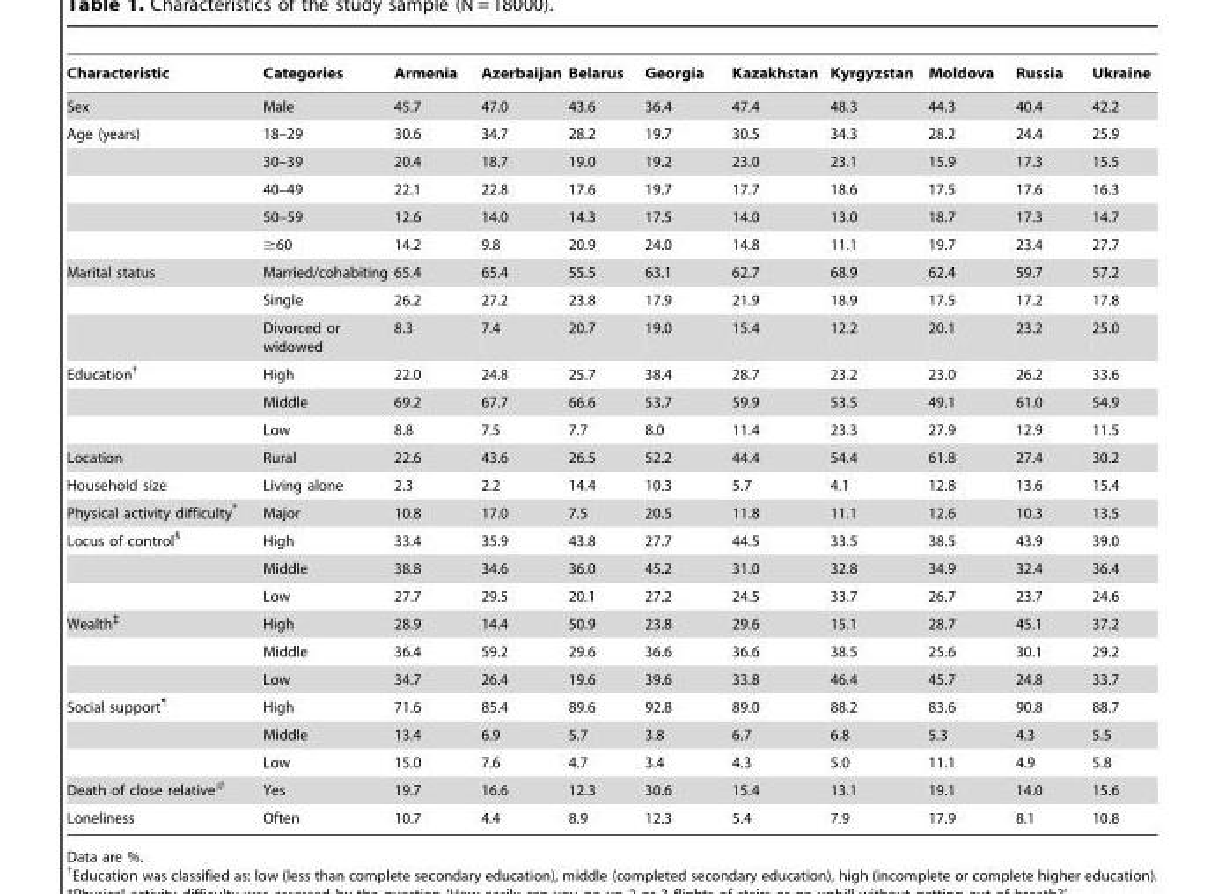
<table><thead><tr><td>Characteristic</td><td>Categories</td><td>Armenia</td><td>Azerbaijan</td><td>Belarus</td><td>Georgia</td><td>Kazakhstan</td><td>Kyrgyzstan</td><td>Moldova</td><td>Russia</td><td>Ukraine</td></tr></thead><tbody><tr><td>Sex</td><td>Male</td><td>45.7</td><td>47.0</td><td>43.6</td><td>36.4</td><td>47.4</td><td>48.3</td><td>44.3</td><td>40.4</td><td>42.2</td></tr><tr><td rowspan="5">Age (years)</td><td>18–29</td><td>30.6</td><td>34.7</td><td>28.2</td><td>19.7</td><td>30.5</td><td>34.3</td><td>28.2</td><td>24.4</td><td>25.9</td></tr><tr><td>30–39</td><td>20.4</td><td>18.7</td><td>19.0</td><td>19.2</td><td>23.0</td><td>23.1</td><td>15.9</td><td>17.3</td><td>15.5</td></tr><tr><td>40–49</td><td>22.1</td><td>22.8</td><td>17.6</td><td>19.7</td><td>17.7</td><td>18.6</td><td>17.5</td><td>17.6</td><td>16.3</td></tr><tr><td>50–59</td><td>12.6</td><td>14.0</td><td>14.3</td><td>17.5</td><td>14.0</td><td>13.0</td><td>18.7</td><td>17.3</td><td>14.7</td></tr><tr><td>≥60</td><td>14.2</td><td>9.8</td><td>20.9</td><td>24.0</td><td>14.8</td><td>11.1</td><td>19.7</td><td>23.4</td><td>27.7</td></tr><tr><td rowspan="3">Marital status</td><td>Married/cohabiting</td><td>65.4</td><td>65.4</td><td>55.5</td><td>63.1</td><td>62.7</td><td>68.9</td><td>62.4</td><td>59.7</td><td>57.2</td></tr><tr><td>Single</td><td>26.2</td><td>27.2</td><td>23.8</td><td>17.9</td><td>21.9</td><td>18.9</td><td>17.5</td><td>17.2</td><td>17.8</td></tr><tr><td>Divorced or widowed</td><td>8.3</td><td>7.4</td><td>20.7</td><td>19.0</td><td>15.4</td><td>12.2</td><td>20.1</td><td>23.2</td><td>25.0</td></tr><tr><td rowspan="3">Education†</td><td>High</td><td>22.0</td><td>24.8</td><td>25.7</td><td>38.4</td><td>28.7</td><td>23.2</td><td>23.0</td><td>26.2</td><td>33.6</td></tr><tr><td>Middle</td><td>69.2</td><td>67.7</td><td>66.6</td><td>53.7</td><td>59.9</td><td>53.5</td><td>49.1</td><td>61.0</td><td>54.9</td></tr><tr><td>Low</td><td>8.8</td><td>7.5</td><td>7.7</td><td>8.0</td><td>11.4</td><td>23.3</td><td>27.9</td><td>12.9</td><td>11.5</td></tr><tr><td>Location</td><td>Rural</td><td>22.6</td><td>43.6</td><td>26.5</td><td>52.2</td><td>44.4</td><td>54.4</td><td>61.8</td><td>27.4</td><td>30.2</td></tr><tr><td>Household size</td><td>Living alone</td><td>2.3</td><td>2.2</td><td>14.4</td><td>10.3</td><td>5.7</td><td>4.1</td><td>12.8</td><td>13.6</td><td>15.4</td></tr><tr><td>Physical activity difficulty*</td><td>Major</td><td>10.8</td><td>17.0</td><td>7.5</td><td>20.5</td><td>11.8</td><td>11.1</td><td>12.6</td><td>10.3</td><td>13.5</td></tr><tr><td rowspan="3">Locus of control§</td><td>High</td><td>33.4</td><td>35.9</td><td>43.8</td><td>27.7</td><td>44.5</td><td>33.5</td><td>38.5</td><td>43.9</td><td>39.0</td></tr><tr><td>Middle</td><td>38.8</td><td>34.6</td><td>36.0</td><td>45.2</td><td>31.0</td><td>32.8</td><td>34.9</td><td>32.4</td><td>36.4</td></tr><tr><td>Low</td><td>27.7</td><td>29.5</td><td>20.1</td><td>27.2</td><td>24.5</td><td>33.7</td><td>26.7</td><td>23.7</td><td>24.6</td></tr><tr><td rowspan="3">Wealth‡</td><td>High</td><td>28.9</td><td>14.4</td><td>50.9</td><td>23.8</td><td>29.6</td><td>15.1</td><td>28.7</td><td>45.1</td><td>37.2</td></tr><tr><td>Middle</td><td>36.4</td><td>59.2</td><td>29.6</td><td>36.6</td><td>36.6</td><td>38.5</td><td>25.6</td><td>30.1</td><td>29.2</td></tr><tr><td>Low</td><td>34.7</td><td>26.4</td><td>19.6</td><td>39.6</td><td>33.8</td><td>46.4</td><td>45.7</td><td>24.8</td><td>33.7</td></tr><tr><td rowspan="3">Social support¶</td><td>High</td><td>71.6</td><td>85.4</td><td>89.6</td><td>92.8</td><td>89.0</td><td>88.2</td><td>83.6</td><td>90.8</td><td>88.7</td></tr><tr><td>Middle</td><td>13.4</td><td>6.9</td><td>5.7</td><td>3.8</td><td>6.7</td><td>6.8</td><td>5.3</td><td>4.3</td><td>5.5</td></tr><tr><td>Low</td><td>15.0</td><td>7.6</td><td>4.7</td><td>3.4</td><td>4.3</td><td>5.0</td><td>11.1</td><td>4.9</td><td>5.8</td></tr><tr><td>Death of close relative#</td><td>Yes</td><td>19.7</td><td>16.6</td><td>12.3</td><td>30.6</td><td>15.4</td><td>13.1</td><td>19.1</td><td>14.0</td><td>15.6</td></tr><tr><td>Loneliness</td><td>Often</td><td>10.7</td><td>4.4</td><td>8.9</td><td>12.3</td><td>5.4</td><td>7.9</td><td>17.9</td><td>8.1</td><td>10.8</td></tr></tbody></table>